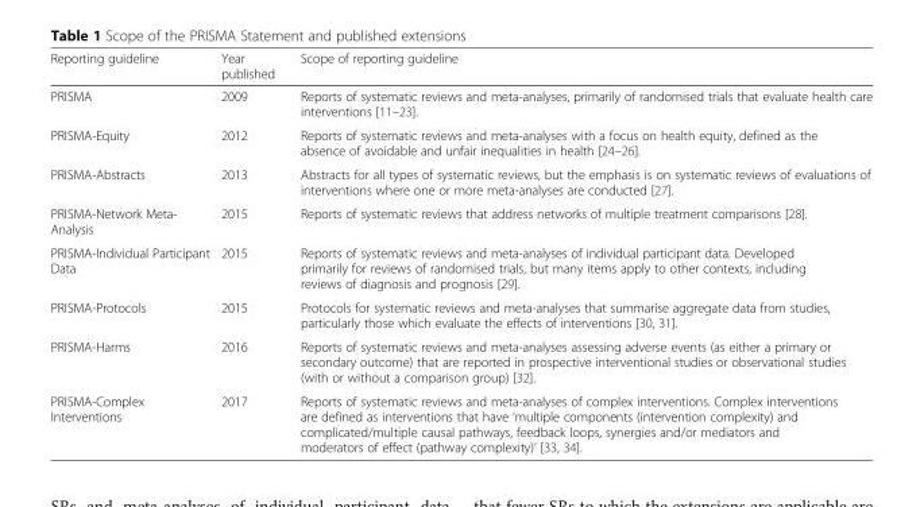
<table><thead><tr><td>Reporting guideline</td><td>Year published</td><td>Scope of reporting guideline</td></tr></thead><tbody><tr><td>PRISMA</td><td>2009</td><td>Reports of systematic reviews and meta-analyses, primarily of randomised trials that evaluate health care interventions [11–23].</td></tr><tr><td>PRISMA-Equity</td><td>2012</td><td>Reports of systematic reviews and meta-analyses with a focus on health equity, defined as the absence of avoidable and unfair inequalities in health [24–26].</td></tr><tr><td>PRISMA-Abstracts</td><td>2013</td><td>Abstracts for all types of systematic reviews, but the emphasis is on systematic reviews of evaluations of interventions where one or more meta-analyses are conducted [27].</td></tr><tr><td>PRISMA-Network Meta- Analysis</td><td>2015</td><td>Reports of systematic reviews that address networks of multiple treatment comparisons [28].</td></tr><tr><td>PRISMA-Individual Participant Data</td><td>2015</td><td>Reports of systematic reviews and meta-analyses of individual participant data. Developed primarily for reviews of randomised trials, but many items apply to other contexts, including reviews of diagnosis and prognosis [29].</td></tr><tr><td>PRISMA-Protocols</td><td>2015</td><td>Protocols for systematic reviews and meta-analyses that summarise aggregate data from studies, particularly those which evaluate the effects of interventions [30, 31].</td></tr><tr><td>PRISMA-Harms</td><td>2016</td><td>Reports of systematic reviews and meta-analyses assessing adverse events (as either a primary or secondary outcome) that are reported in prospective interventional studies or observational studies (with or without a comparison group) [32].</td></tr><tr><td>PRISMA-Complex Interventions</td><td>2017</td><td>Reports of systematic reviews and meta-analyses of complex interventions. Complex interventions are defined as interventions that have ‘multiple components (intervention complexity) and complicated/multiple causal pathways, feedback loops, synergies and/or mediators and moderators of effect (pathway complexity)’ [33, 34].</td></tr></tbody></table>